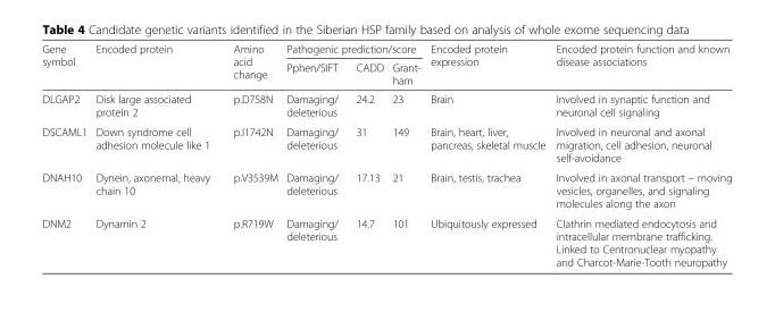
<table><thead><tr><td rowspan="2">Gene symbol</td><td rowspan="2">Encoded protein</td><td rowspan="2">Amino acid change</td><td colspan="3">Pathogenic prediction/score</td><td rowspan="2">Encoded protein expression</td><td rowspan="2">Encoded protein function and known disease associations</td></tr><tr><td>Pphen/SIFT</td><td>CADD</td><td>Grant- ham</td></tr></thead><tbody><tr><td>DLGAP2</td><td>Disk large associated protein 2</td><td>p.D758N</td><td>Damaging/ deleterious</td><td>24.2</td><td>23</td><td>Brain</td><td>Involved in synaptic function and neuronal cell signaling</td></tr><tr><td>DSCAML1</td><td>Down syndrome cell adhesion molecule like 1</td><td>p.I1742N</td><td>Damaging/ deleterious</td><td>31</td><td>149</td><td>Brain, heart, liver, pancreas, skeletal muscle</td><td>Involved in neuronal and axonal migration, cell adhesion, neuronal self-avoidance</td></tr><tr><td>DNAH10</td><td>Dynein, axonemal, heavy chain 10</td><td>p.V3539M</td><td>Damaging/ deleterious</td><td>17.13</td><td>21</td><td>Brain, testis, trachea</td><td>Involved in axonal transport – moving vesicles, organelles, and signaling molecules along the axon</td></tr><tr><td>DNM2</td><td>Dynamin 2</td><td>p.R719W</td><td>Damaging/ deleterious</td><td>14.7</td><td>101</td><td>Ubiquitously expressed</td><td>Clathrin mediated endocytosis and intracellular membrane trafficking. Linked to Centronuclear myopathy and Charcot-Marie-Tooth neuropathy</td></tr></tbody></table>